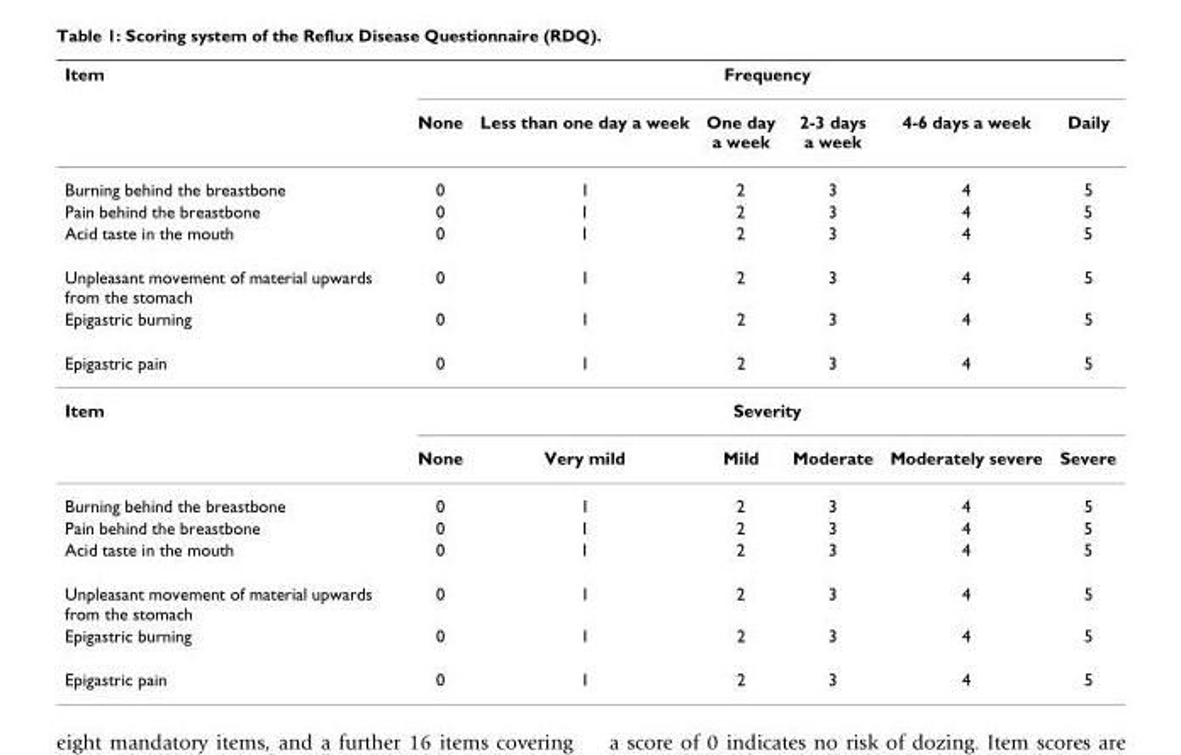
<table><thead><tr><td rowspan="2">Item</td><td colspan="6">Frequency</td></tr><tr><td>None</td><td>Less than one day a week</td><td>One day a week</td><td>2-3 days a week</td><td>4-6 days a week</td><td>Daily</td></tr></thead><tbody><tr><td>Burning behind the breastbone</td><td>0</td><td>1</td><td>2</td><td>3</td><td>4</td><td>5</td></tr><tr><td>Pain behind the breastbone</td><td>0</td><td>1</td><td>2</td><td>3</td><td>4</td><td>5</td></tr><tr><td>Acid taste in the mouth</td><td>0</td><td>1</td><td>2</td><td>3</td><td>4</td><td>5</td></tr><tr><td>Unpleasant movement of material upwards from the stomach</td><td>0</td><td>1</td><td>2</td><td>3</td><td>4</td><td>5</td></tr><tr><td>Epigastric burning</td><td>0</td><td>1</td><td>2</td><td>3</td><td>4</td><td>5</td></tr><tr><td>Epigastric pain</td><td>0</td><td>1</td><td>2</td><td>3</td><td>4</td><td>5</td></tr><tr><td rowspan="2">Item</td><td colspan="6">Severity</td></tr><tr><td>None</td><td>Very mild</td><td>Mild</td><td>Moderate</td><td>Moderately severe</td><td>Severe</td></tr><tr><td>Burning behind the breastbone</td><td>0</td><td>1</td><td>2</td><td>3</td><td>4</td><td>5</td></tr><tr><td>Pain behind the breastbone</td><td>0</td><td>1</td><td>2</td><td>3</td><td>4</td><td>5</td></tr><tr><td>Acid taste in the mouth</td><td>0</td><td>1</td><td>2</td><td>3</td><td>4</td><td>5</td></tr><tr><td>Unpleasant movement of material upwards from the stomach</td><td>0</td><td>1</td><td>2</td><td>3</td><td>4</td><td>5</td></tr><tr><td>Epigastric burning</td><td>0</td><td>1</td><td>2</td><td>3</td><td>4</td><td>5</td></tr><tr><td>Epigastric pain</td><td>0</td><td>1</td><td>2</td><td>3</td><td>4</td><td>5</td></tr></tbody></table>